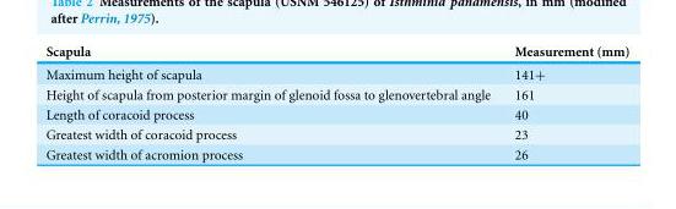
<table><thead><tr><td>Scapula</td><td>Measurement (mm)</td></tr></thead><tbody><tr><td>Maximum height of scapula</td><td>141+</td></tr><tr><td>Height of scapula from posterior margin of glenoid fossa to glenovertebral angle</td><td>161</td></tr><tr><td>Length of coracoid process</td><td>40</td></tr><tr><td>Greatest width of coracoid process</td><td>23</td></tr><tr><td>Greatest width of acromion process</td><td>26</td></tr></tbody></table>